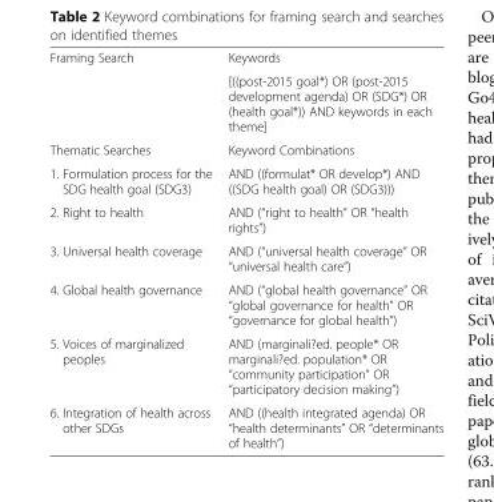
<table><tbody><tr><td rowspan="2">Framing Search</td><td>Keywords</td></tr><tr><td>[((post-2015 goal*) OR (post-2015 development agenda) OR (SDG*) OR (health goal*)) AND keywords in each theme]</td></tr><tr><td>Thematic Searches</td><td>Keyword Combinations</td></tr><tr><td>1. Formulation process for the SDG health goal (SDG3)</td><td>AND ((formulat* OR develop*) AND ((SDG health goal) OR (SDG3)))</td></tr><tr><td>2. Right to health</td><td>AND (“right to health” OR “health rights”)</td></tr><tr><td>3. Universal health coverage</td><td>AND (“universal health coverage” OR “universal health care”)</td></tr><tr><td>4. Global health governance</td><td>AND (“global health governance” OR “global governance for health” OR “governance for global health”)</td></tr><tr><td>5. Voices of marginalized peoples</td><td>AND (marginali?ed. people* OR marginali?ed. population* OR “community participation” OR “participatory decision making”)</td></tr><tr><td>6. Integration of health across other SDGs</td><td>AND ((health integrated agenda) OR “health determinants” OR “determinants of health”)</td></tr></tbody></table>